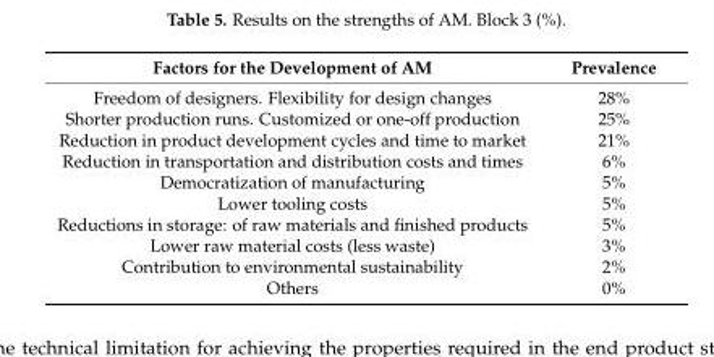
<table><thead><tr><td>Factors for the Development of AM</td><td>Prevalence</td></tr></thead><tbody><tr><td>Freedom of designers. Flexibility for design changes</td><td>28%</td></tr><tr><td>Shorter production runs. Customized or one-off production</td><td>25%</td></tr><tr><td>Reduction in product development cycles and time to market</td><td>21%</td></tr><tr><td>Reduction in transportation and distribution costs and times</td><td>6%</td></tr><tr><td>Democratization of manufacturing</td><td>5%</td></tr><tr><td>Lower tooling costs</td><td>5%</td></tr><tr><td>Reductions in storage: of raw materials and finished products</td><td>5%</td></tr><tr><td>Lower raw material costs (less waste)</td><td>3%</td></tr><tr><td>Contribution to environmental sustainability</td><td>2%</td></tr><tr><td>Others</td><td>0%</td></tr></tbody></table>